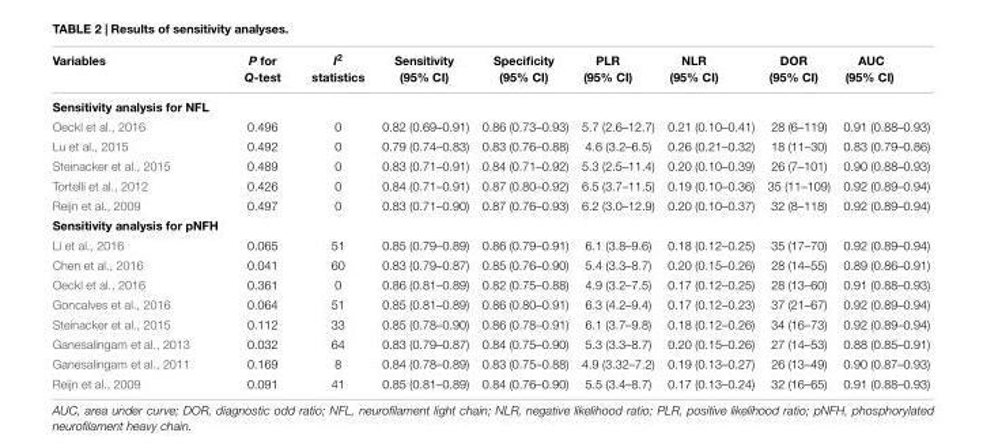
<table><thead><tr><td>Variables</td><td>P for Q-test</td><td>I<sup>2</sup> statistics</td><td>Sensitivity (95% CI)</td><td>Specificity (95% CI)</td><td>PLR (95% CI)</td><td>NLR (95% CI)</td><td>DOR (95% CI)</td><td>AUC (95% CI)</td></tr></thead><tbody><tr><td colspan="9">Sensitivity analysis for NFL</td></tr><tr><td>Oeckl et al., 2016</td><td>0.496</td><td>0</td><td>0.82 (0.69–0.91)</td><td>0.86 (0.73–0.93)</td><td>5.7 (2.6–12.7)</td><td>0.21 (0.10–0.41)</td><td>28 (6–119)</td><td>0.91 (0.88–0.93)</td></tr><tr><td>Lu et al., 2015</td><td>0.492</td><td>0</td><td>0.79 (0.74–0.83)</td><td>0.83 (0.76–0.88)</td><td>4.6 (3.2–6.5)</td><td>0.26 (0.21–0.32)</td><td>18 (11–30)</td><td>0.83 (0.79–0.86)</td></tr><tr><td>Steinacker et al., 2015</td><td>0.489</td><td>0</td><td>0.83 (0.71–0.91)</td><td>0.84 (0.71–0.92)</td><td>5.3 (2.5–11.4)</td><td>0.20 (0.10–0.39)</td><td>26 (7–101)</td><td>0.90 (0.88–0.93)</td></tr><tr><td>Tortelli et al., 2012</td><td>0.426</td><td>0</td><td>0.84 (0.71–0.91)</td><td>0.87 (0.80–0.92)</td><td>6.5 (3.7–11.5)</td><td>0.19 (0.10–0.36)</td><td>35 (11–109)</td><td>0.92 (0.89–0.94)</td></tr><tr><td>Reijn et al., 2009</td><td>0.497</td><td>0</td><td>0.83 (0.71–0.90)</td><td>0.87 (0.76–0.93)</td><td>6.2 (3.0–12.9)</td><td>0.20 (0.10–0.37)</td><td>32 (8–118)</td><td>0.92 (0.89–0.94)</td></tr><tr><td colspan="9">Sensitivity analysis for pNFH</td></tr><tr><td>Li et al., 2016</td><td>0.065</td><td>51</td><td>0.85 (0.79–0.89)</td><td>0.86 (0.79–0.91)</td><td>6.1 (3.8–9.6)</td><td>0.18 (0.12–0.25)</td><td>35 (17–70)</td><td>0.92 (0.89–0.94)</td></tr><tr><td>Chen et al., 2016</td><td>0.041</td><td>60</td><td>0.83 (0.79–0.87)</td><td>0.85 (0.76–0.90)</td><td>5.4 (3.3–8.7)</td><td>0.20 (0.15–0.26)</td><td>28 (14–55)</td><td>0.89 (0.86–0.91)</td></tr><tr><td>Oeckl et al., 2016</td><td>0.361</td><td>0</td><td>0.86 (0.81–0.89)</td><td>0.82 (0.75–0.88)</td><td>4.9 (3.2–7.5)</td><td>0.17 (0.12–0.25)</td><td>28 (13–60)</td><td>0.91 (0.88–0.93)</td></tr><tr><td>Goncalves et al., 2016</td><td>0.064</td><td>51</td><td>0.85 (0.81–0.89)</td><td>0.86 (0.80–0.91)</td><td>6.3 (4.2–9.4)</td><td>0.17 (0.12–0.23)</td><td>37 (21–67)</td><td>0.92 (0.89–0.94)</td></tr><tr><td>Steinacker et al., 2015</td><td>0.112</td><td>33</td><td>0.85 (0.78–0.90)</td><td>0.86 (0.78–0.91)</td><td>6.1 (3.7–9.8)</td><td>0.18 (0.12–0.26)</td><td>34 (16–73)</td><td>0.92 (0.89–0.94)</td></tr><tr><td>Ganesalingam et al., 2013</td><td>0.032</td><td>64</td><td>0.83 (0.79–0.87)</td><td>0.84 (0.75–0.90)</td><td>5.3 (3.3–8.7)</td><td>0.20 (0.15–0.26)</td><td>27 (14–53)</td><td>0.88 (0.85–0.91)</td></tr><tr><td>Ganesalingam et al., 2011</td><td>0.169</td><td>8</td><td>0.84 (0.78–0.89)</td><td>0.83 (0.75–0.88)</td><td>4.9 (3.32–7.2)</td><td>0.19 (0.13–0.27)</td><td>26 (13–49)</td><td>0.90 (0.87–0.93)</td></tr><tr><td>Reijn et al., 2009</td><td>0.091</td><td>41</td><td>0.85 (0.81–0.89)</td><td>0.84 (0.76–0.90)</td><td>5.5 (3.4–8.7)</td><td>0.17 (0.13–0.24)</td><td>32 (16–65)</td><td>0.91 (0.88–0.93)</td></tr></tbody></table>